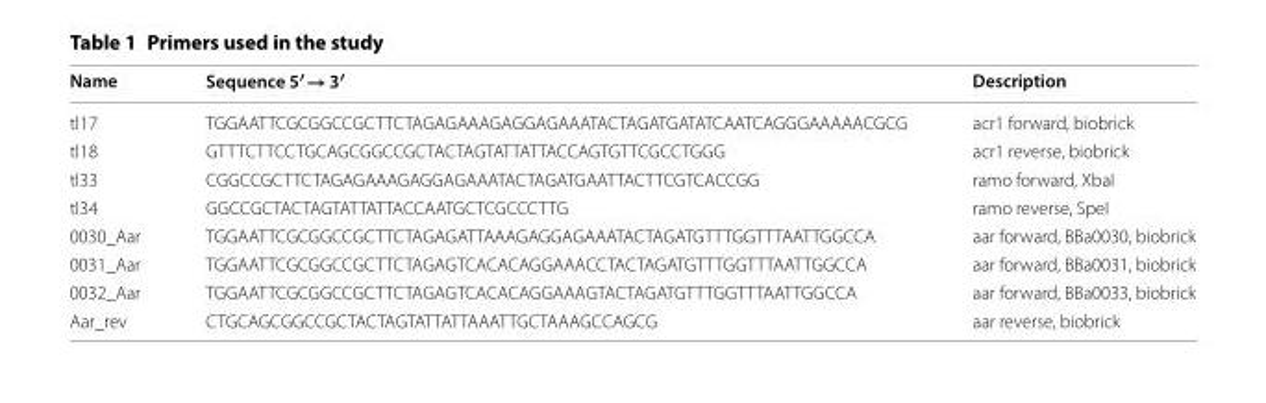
<table><thead><tr><td>Name</td><td>Sequence 5′ → 3′</td><td>Description</td></tr></thead><tbody><tr><td>tl17</td><td>TGG AAT TCG CGG CCG CTT CTA GAG AAA GAG GAG AAA TAC TAG ATG ATA TCA ATC AGG GAA AAA CGC G</td><td>acr1 forward, biobrick</td></tr><tr><td>tl18</td><td>GTT TCT TCC TGC AGC GGC CGC TAC TAG TAT TAT TAC CAG TGT TCG CCT GGG</td><td>acr1 reverse, biobrick</td></tr><tr><td>tl33</td><td>CGG CCG CTT CTA GAG AAA GAG GAG AAA TAC TAG ATG AAT TAC TTC GTC ACCGG</td><td>ramo forward, XbaI</td></tr><tr><td>tl34</td><td>GGC CGC TAC TAG TAT TAT TAC CAA TGC TCG CCC TTG</td><td>ramo reverse, SpeI</td></tr><tr><td>0030_Aar</td><td>TGG AAT TCG CGG CCG CTT CTA GAG ATT AAA GAG GAG AAA TAC TAG ATG TTT GGT TTA ATT GGCCA</td><td>aar forward, BBa0030, biobrick</td></tr><tr><td>0031_Aar</td><td>TGG AAT TCG CGG CCG CTT CTA GAG TCA CAC AGG AAA CCT ACT AGA TGT TTG GTT TAA TTG GCCA</td><td>aar forward, BBa0031, biobrick</td></tr><tr><td>0032_Aar</td><td>TGG AAT TCG CGG CCG CTT CTA GAG TCA CAC AGG AAA GTA CTA GAT GTT TGG TTT AAT TGG CCA</td><td>aar forward, BBa0033, biobrick</td></tr><tr><td>Aar_rev</td><td>CTG CAG CGG CCG CTA CTA GTA TTA TTA AAT TGC TAA AGC CAG CG</td><td>aar reverse, biobrick</td></tr></tbody></table>